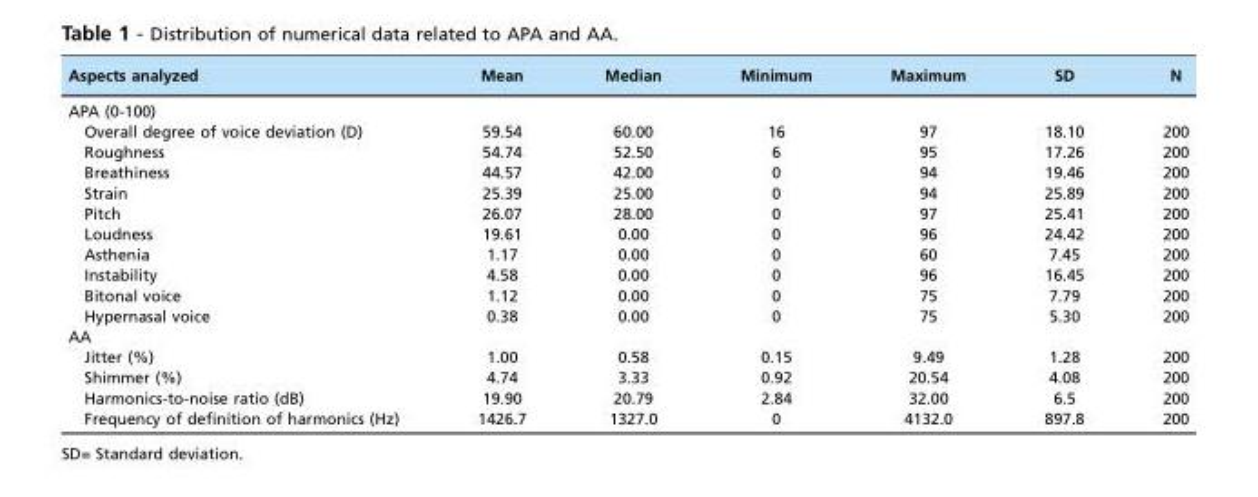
<table><thead><tr><td>Aspects analyzed</td><td>Mean</td><td>Median</td><td>Minimum</td><td>Maximum</td><td>SD</td><td>N</td></tr></thead><tbody><tr><td colspan="7">APA (0-100)</td></tr><tr><td>Overall degree of voice deviation (D)</td><td>59.54</td><td>60.00</td><td>16</td><td>97</td><td>18.10</td><td>200</td></tr><tr><td>Roughness</td><td>54.74</td><td>52.50</td><td>6</td><td>95</td><td>17.26</td><td>200</td></tr><tr><td>Breathiness</td><td>44.57</td><td>42.00</td><td>0</td><td>94</td><td>19.46</td><td>200</td></tr><tr><td>Strain</td><td>25.39</td><td>25.00</td><td>0</td><td>94</td><td>25.89</td><td>200</td></tr><tr><td>Pitch</td><td>26.07</td><td>28.00</td><td>0</td><td>97</td><td>25.41</td><td>200</td></tr><tr><td>Loudness</td><td>19.61</td><td>0.00</td><td>0</td><td>96</td><td>24.42</td><td>200</td></tr><tr><td>Asthenia</td><td>1.17</td><td>0.00</td><td>0</td><td>60</td><td>7.45</td><td>200</td></tr><tr><td>Instability</td><td>4.58</td><td>0.00</td><td>0</td><td>96</td><td>16.45</td><td>200</td></tr><tr><td>Bitonal voice</td><td>1.12</td><td>0.00</td><td>0</td><td>75</td><td>7.79</td><td>200</td></tr><tr><td>Hypernasal voice</td><td>0.38</td><td>0.00</td><td>0</td><td>75</td><td>5.30</td><td>200</td></tr><tr><td colspan="7">AA</td></tr><tr><td>Jitter (%)</td><td>1.00</td><td>0.58</td><td>0.15</td><td>9.49</td><td>1.28</td><td>200</td></tr><tr><td>Shimmer (%)</td><td>4.74</td><td>3.33</td><td>0.92</td><td>20.54</td><td>4.08</td><td>200</td></tr><tr><td>Harmonics-to-noise ratio (dB)</td><td>19.90</td><td>20.79</td><td>2.84</td><td>32.00</td><td>6.5</td><td>200</td></tr><tr><td>Frequency of definition of harmonics (Hz)</td><td>1426.7</td><td>1327.0</td><td>0</td><td>4132.0</td><td>897.8</td><td>200</td></tr></tbody></table>